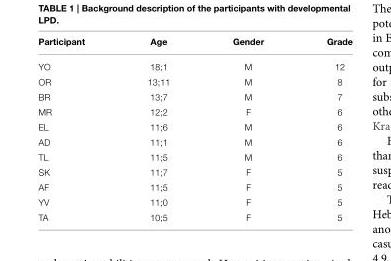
<table><thead><tr><td>Participant</td><td>Age</td><td>Gender</td><td>Grade</td></tr></thead><tbody><tr><td>YO</td><td>18;1</td><td>M</td><td>12</td></tr><tr><td>OR</td><td>13;11</td><td>M</td><td>8</td></tr><tr><td>BR</td><td>13;7</td><td>M</td><td>7</td></tr><tr><td>MR</td><td>12;2</td><td>F</td><td>6</td></tr><tr><td>EL</td><td>11;6</td><td>M</td><td>6</td></tr><tr><td>AD</td><td>11;1</td><td>M</td><td>6</td></tr><tr><td>TL</td><td>11;5</td><td>M</td><td>6</td></tr><tr><td>SK</td><td>11;7</td><td>F</td><td>5</td></tr><tr><td>AF</td><td>11;5</td><td>F</td><td>5</td></tr><tr><td>YV</td><td>11;0</td><td>F</td><td>5</td></tr><tr><td>TA</td><td>10;5</td><td>F</td><td>5</td></tr></tbody></table>